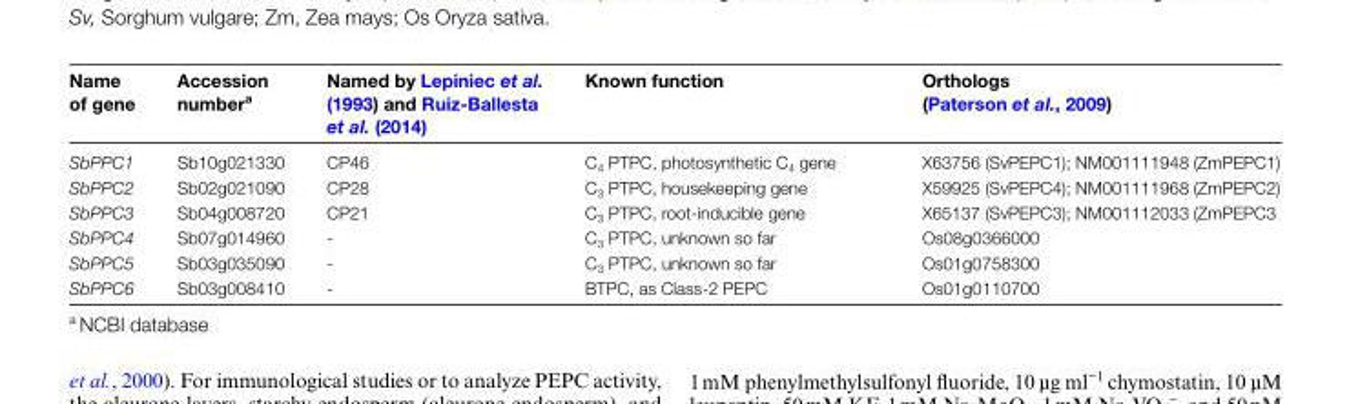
<table><thead><tr><td>Name of gene</td><td>Accession number<sup>a</sup></td><td>Named by Lepiniec et al. (1993) and Ruiz-Ballesta et al. (2014)</td><td>Known function</td><td>Orthologs (Paterson et al., 2009)</td></tr></thead><tbody><tr><td>SbPPC1</td><td>Sb10g021330</td><td>CP46</td><td>C<sub>4</sub> PTPC, photosynthetic C<sub>4</sub> gene</td><td>X63756 (SvPEPC1); NM001111948 (ZmPEPC1)</td></tr><tr><td>SbPPC2</td><td>Sb02g021090</td><td>CP28</td><td>C<sub>3</sub> PTPC, housekeeping gene</td><td>X59925 (SvPEPC4); NM001111968 (ZmPEPC2)</td></tr><tr><td>SbPPC3</td><td>Sb04g008720</td><td>CP21</td><td>C<sub>3</sub> PTPC, root-inducible gene</td><td>X65137 (SvPEPC3); NM001112033 (ZmPEPC3</td></tr><tr><td>SbPPC4</td><td>Sb07g014960</td><td>-</td><td>C<sub>3</sub> PTPC, unknown so far</td><td>Os08g0366000</td></tr><tr><td>SbPPC5</td><td>Sb03g035090</td><td>-</td><td>C<sub>3</sub> PTPC, unknown so far</td><td>Os01g0758300</td></tr><tr><td>SbPPC6</td><td>Sb03g008410</td><td>-</td><td>BTPC, as Class-2 PEPC</td><td>Os01g0110700</td></tr><tr><td colspan="5">a NCBI database</td></tr></tbody></table>